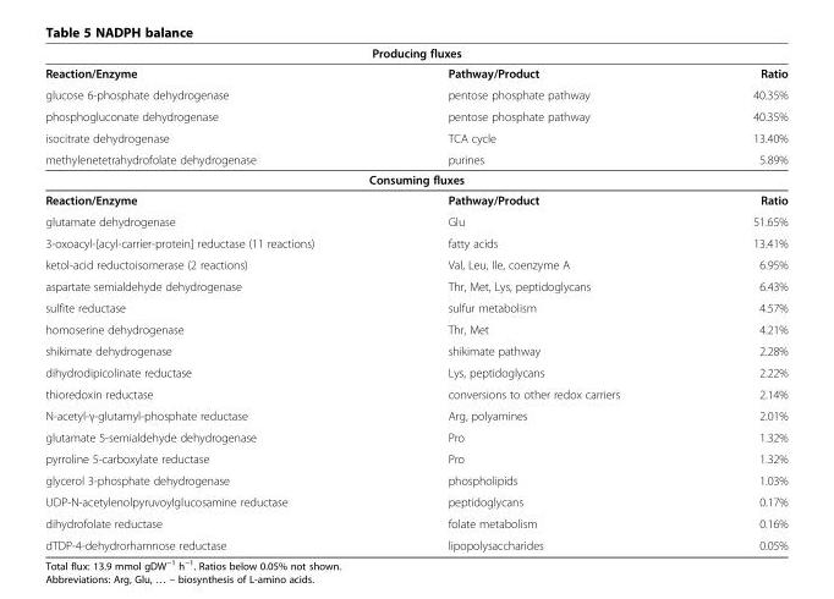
<table><tbody><tr><td colspan="3">Producing fluxes</td></tr><tr><td>Reaction/Enzyme</td><td>Pathway/Product</td><td>Ratio</td></tr><tr><td>glucose 6-phosphate dehydrogenase</td><td>pentose phosphate pathway</td><td>40.35%</td></tr><tr><td>phosphogluconate dehydrogenase</td><td>pentose phosphate pathway</td><td>40.35%</td></tr><tr><td>isocitrate dehydrogenase</td><td>TCA cycle</td><td>13.40%</td></tr><tr><td>methylenetetrahydrofolate dehydrogenase</td><td>purines</td><td>5.89%</td></tr><tr><td colspan="3">Consuming fluxes</td></tr><tr><td>Reaction/Enzyme</td><td>Pathway/Product</td><td>Ratio</td></tr><tr><td>glutamate dehydrogenase</td><td>Glu</td><td>51.65%</td></tr><tr><td>3-oxoacyl-[acyl-carrier-protein] reductase (11 reactions)</td><td>fatty acids</td><td>13.41%</td></tr><tr><td>ketol-acid reductoisomerase (2 reactions)</td><td>Val, Leu, Ile, coenzyme A</td><td>6.95%</td></tr><tr><td>aspartate semialdehyde dehydrogenase</td><td>Thr, Met, Lys, peptidoglycans</td><td>6.43%</td></tr><tr><td>sulfite reductase</td><td>sulfur metabolism</td><td>4.57%</td></tr><tr><td>homoserine dehydrogenase</td><td>Thr, Met</td><td>4.21%</td></tr><tr><td>shikimate dehydrogenase</td><td>shikimate pathway</td><td>2.28%</td></tr><tr><td>dihydrodipicolinate reductase</td><td>Lys, peptidoglycans</td><td>2.22%</td></tr><tr><td>thioredoxin reductase</td><td>conversions to other redox carriers</td><td>2.14%</td></tr><tr><td>N-acetyl-γ-glutamyl-phosphate reductase</td><td>Arg, polyamines</td><td>2.01%</td></tr><tr><td>glutamate 5-semialdehyde dehydrogenase</td><td>Pro</td><td>1.32%</td></tr><tr><td>pyrroline 5-carboxylate reductase</td><td>Pro</td><td>1.32%</td></tr><tr><td>glycerol 3-phosphate dehydrogenase</td><td>phospholipids</td><td>1.03%</td></tr><tr><td>UDP-N-acetylenolpyruvoylglucosamine reductase</td><td>peptidoglycans</td><td>0.17%</td></tr><tr><td>dihydrofolate reductase</td><td>folate metabolism</td><td>0.16%</td></tr><tr><td>dTDP-4-dehydrorhamnose reductase</td><td>lipopolysaccharides</td><td>0.05%</td></tr></tbody></table>